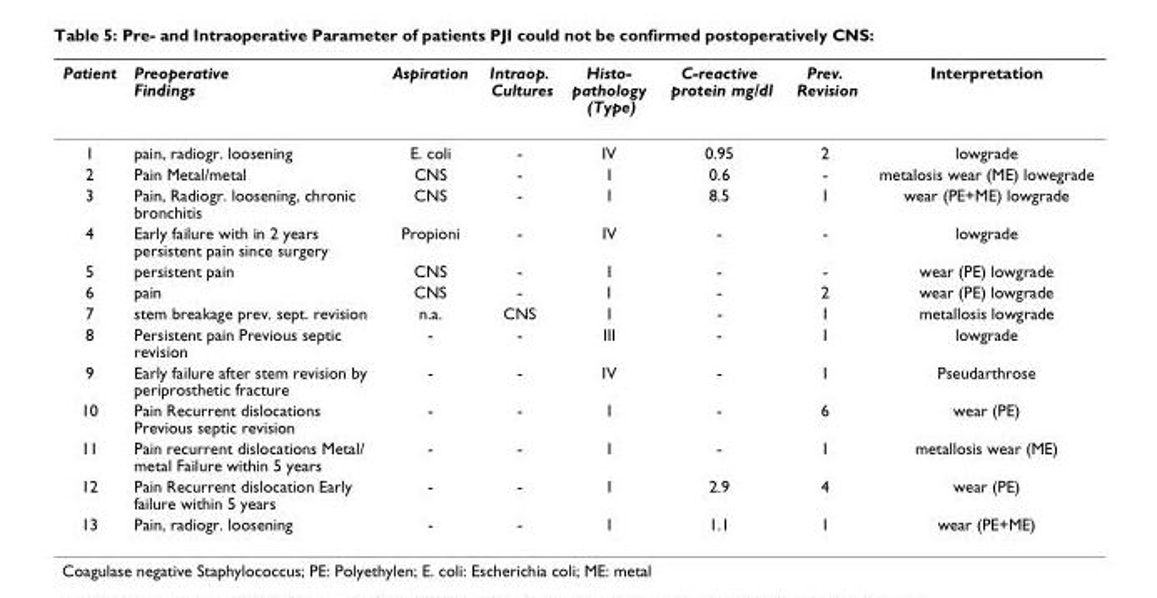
<table><thead><tr><td>Patient</td><td>Preoperative Findings</td><td>Aspiration</td><td>Intraop. Cultures</td><td>Histo- pathology (Type)</td><td>C-reactive protein mg/dl</td><td>Prev. Revision</td><td>Interpretation</td></tr></thead><tbody><tr><td>1</td><td>pain, radiogr. loosening</td><td>E. coli</td><td>-</td><td>IV</td><td>0.95</td><td>2</td><td>lowgrade</td></tr><tr><td>2</td><td>Pain Metal/metal</td><td>CNS</td><td>-</td><td>I</td><td>0.6</td><td>-</td><td>metalosis wear (ME) lowegrade</td></tr><tr><td>3</td><td>Pain, Radiogr. loosening, chronic bronchitis</td><td>CNS</td><td>-</td><td>I</td><td>8.5</td><td>1</td><td>wear (PE+ME) lowgrade</td></tr><tr><td>4</td><td>Early failure with in 2 years persistent pain since surgery</td><td>Propioni</td><td>-</td><td>IV</td><td>-</td><td>-</td><td>lowgrade</td></tr><tr><td>5</td><td>persistent pain</td><td>CNS</td><td>-</td><td>I</td><td>-</td><td>-</td><td>wear (PE) lowgrade</td></tr><tr><td>6</td><td>pain</td><td>CNS</td><td>-</td><td>I</td><td>-</td><td>2</td><td>wear (PE) lowgrade</td></tr><tr><td>7</td><td>stem breakage prev. sept. revision</td><td>n.a.</td><td>CNS</td><td>I</td><td>-</td><td>1</td><td>metallosis lowgrade</td></tr><tr><td>8</td><td>Persistent pain Previous septic revision</td><td>-</td><td>-</td><td>III</td><td>-</td><td>1</td><td>lowgrade</td></tr><tr><td>9</td><td>Early failure after stem revision by periprosthetic fracture</td><td>-</td><td>-</td><td>IV</td><td>-</td><td>1</td><td>Pseudarthrose</td></tr><tr><td>10</td><td>Pain Recurrent dislocations Previous septic revision</td><td>-</td><td>-</td><td>I</td><td>-</td><td>6</td><td>wear (PE)</td></tr><tr><td>11</td><td>Pain recurrent dislocations Metal/ metal Failure within 5 years</td><td>-</td><td>-</td><td>I</td><td>-</td><td>1</td><td>metallosis wear (ME)</td></tr><tr><td>12</td><td>Pain Recurrent dislocation Early failure within 5 years</td><td>-</td><td>-</td><td>I</td><td>2.9</td><td>4</td><td>wear (PE)</td></tr><tr><td>13</td><td>Pain, radiogr. loosening</td><td>-</td><td>-</td><td>I</td><td>1.1</td><td>1</td><td>wear (PE+ME)</td></tr></tbody></table>